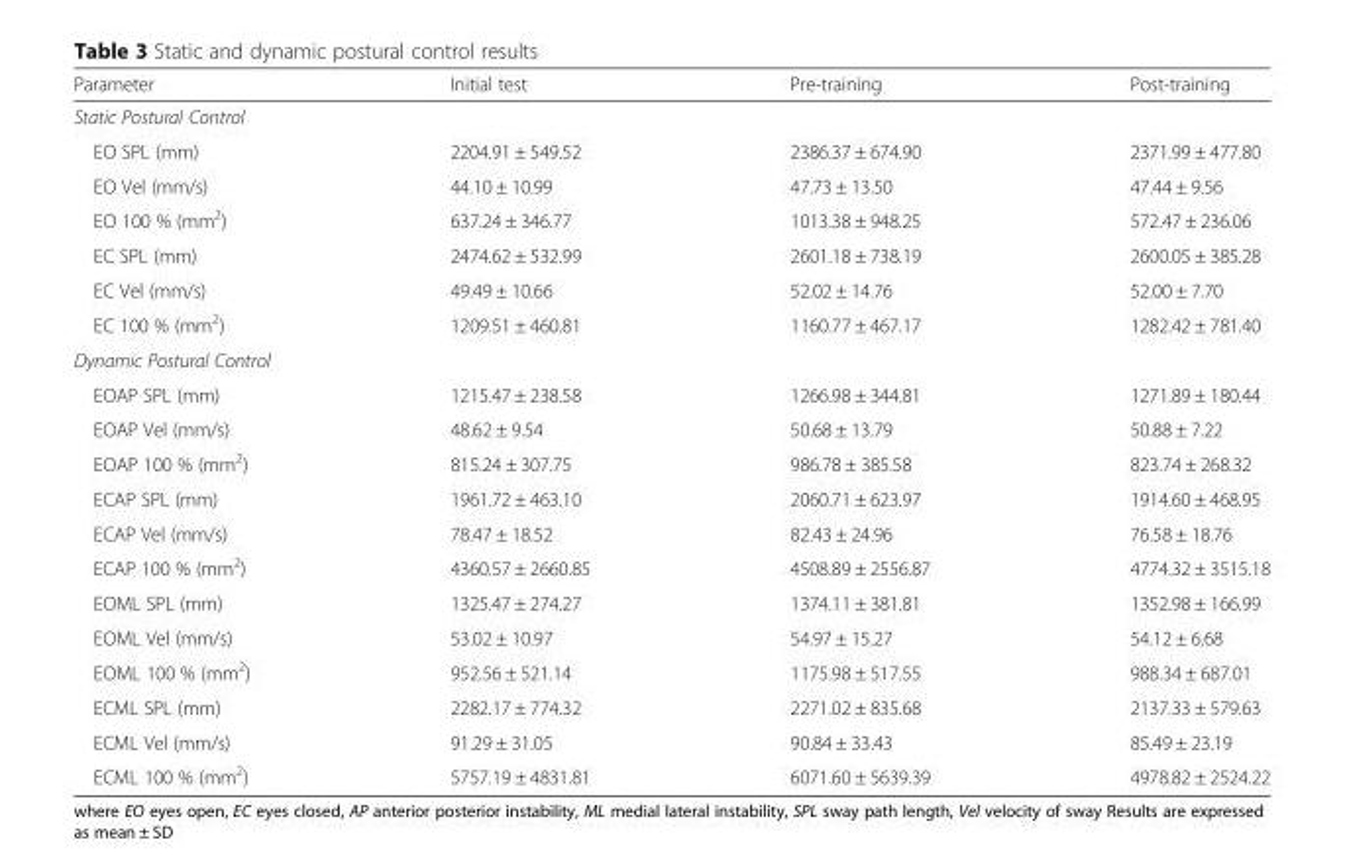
<table><thead><tr><td>Parameter</td><td>Initial test</td><td>Pre-training</td><td>Post-training</td></tr></thead><tbody><tr><td colspan="4">Static Postural Control</td></tr><tr><td>EO SPL (mm)</td><td>2204.91 ± 549.52</td><td>2386.37 ± 674.90</td><td>2371.99 ± 477.80</td></tr><tr><td>EO Vel (mm/s)</td><td>44.10 ± 10.99</td><td>47.73 ± 13.50</td><td>47.44 ± 9.56</td></tr><tr><td>EO 100 % (mm<sup>2</sup>)</td><td>637.24 ± 346.77</td><td>1013.38 ± 948.25</td><td>572.47 ± 236.06</td></tr><tr><td>EC SPL (mm)</td><td>2474.62 ± 532.99</td><td>2601.18 ± 738.19</td><td>2600.05 ± 385.28</td></tr><tr><td>EC Vel (mm/s)</td><td>49.49 ± 10.66</td><td>52.02 ± 14.76</td><td>52.00 ± 7.70</td></tr><tr><td>EC 100 % (mm<sup>2</sup>)</td><td>1209.51 ± 460.81</td><td>1160.77 ± 467.17</td><td>1282.42 ± 781.40</td></tr><tr><td colspan="4">Dynamic Postural Control</td></tr><tr><td>EOAP SPL (mm)</td><td>1215.47 ± 238.58</td><td>1266.98 ± 344.81</td><td>1271.89 ± 180.44</td></tr><tr><td>EOAP Vel (mm/s)</td><td>48.62 ± 9.54</td><td>50.68 ± 13.79</td><td>50.88 ± 7.22</td></tr><tr><td>EOAP 100 % (mm<sup>2</sup>)</td><td>815.24 ± 307.75</td><td>986.78 ± 385.58</td><td>823.74 ± 268.32</td></tr><tr><td>ECAP SPL (mm)</td><td>1961.72 ± 463.10</td><td>2060.71 ± 623.97</td><td>1914.60 ± 468.95</td></tr><tr><td>ECAP Vel (mm/s)</td><td>78.47 ± 18.52</td><td>82.43 ± 24.96</td><td>76.58 ± 18.76</td></tr><tr><td>ECAP 100 % (mm<sup>2</sup>)</td><td>4360.57 ± 2660.85</td><td>4508.89 ± 2556.87</td><td>4774.32 ± 3515.18</td></tr><tr><td>EOML SPL (mm)</td><td>1325.47 ± 274.27</td><td>1374.11 ± 381.81</td><td>1352.98 ± 166.99</td></tr><tr><td>EOML Vel (mm/s)</td><td>53.02 ± 10.97</td><td>54.97 ± 15.27</td><td>54.12 ± 6.68</td></tr><tr><td>EOML 100 % (mm<sup>2</sup>)</td><td>952.56 ± 521.14</td><td>1175.98 ± 517.55</td><td>988.34 ± 687.01</td></tr><tr><td>ECML SPL (mm)</td><td>2282.17 ± 774.32</td><td>2271.02 ± 835.68</td><td>2137.33 ± 579.63</td></tr><tr><td>ECML Vel (mm/s)</td><td>91.29 ± 31.05</td><td>90.84 ± 33.43</td><td>85.49 ± 23.19</td></tr><tr><td>ECML 100 % (mm<sup>2</sup>)</td><td>5757.19 ± 4831.81</td><td>6071.60 ± 5639.39</td><td>4978.82 ± 2524.22</td></tr></tbody></table>